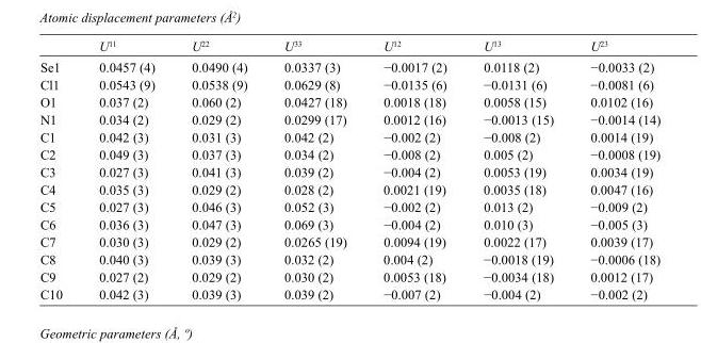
<table><thead><tr><td></td><td>U<sup>11</sup></td><td>U<sup>22</sup></td><td>U<sup>33</sup></td><td>U<sup>12</sup></td><td>U<sup>13</sup></td><td>U<sup>23</sup></td></tr></thead><tbody><tr><td>Se1</td><td>0.0457 (4)</td><td>0.0490 (4)</td><td>0.0337 (3)</td><td>−0.0017 (2)</td><td>0.0118 (2)</td><td>−0.0033 (2)</td></tr><tr><td>Cl1</td><td>0.0543 (9)</td><td>0.0538 (9)</td><td>0.0629 (8)</td><td>−0.0135 (6)</td><td>−0.0131 (6)</td><td>−0.0081 (6)</td></tr><tr><td>O1</td><td>0.037 (2)</td><td>0.060 (2)</td><td>0.0427 (18)</td><td>0.0018 (18)</td><td>0.0058 (15)</td><td>0.0102 (16)</td></tr><tr><td>N1</td><td>0.034 (2)</td><td>0.029 (2)</td><td>0.0299 (17)</td><td>0.0012 (16)</td><td>−0.0013 (15)</td><td>−0.0014 (14)</td></tr><tr><td>C1</td><td>0.042 (3)</td><td>0.031 (3)</td><td>0.042 (2)</td><td>−0.002 (2)</td><td>−0.008 (2)</td><td>0.0014 (19)</td></tr><tr><td>C2</td><td>0.049 (3)</td><td>0.037 (3)</td><td>0.034 (2)</td><td>−0.008 (2)</td><td>0.005 (2)</td><td>−0.0008 (19)</td></tr><tr><td>C3</td><td>0.027 (3)</td><td>0.041 (3)</td><td>0.039 (2)</td><td>−0.004 (2)</td><td>0.0053 (19)</td><td>0.0034 (19)</td></tr><tr><td>C4</td><td>0.035 (3)</td><td>0.029 (2)</td><td>0.028 (2)</td><td>0.0021 (19)</td><td>0.0035 (18)</td><td>0.0047 (16)</td></tr><tr><td>C5</td><td>0.027 (3)</td><td>0.046 (3)</td><td>0.052 (3)</td><td>−0.002 (2)</td><td>0.013 (2)</td><td>−0.009 (2)</td></tr><tr><td>C6</td><td>0.036 (3)</td><td>0.047 (3)</td><td>0.069 (3)</td><td>−0.004 (2)</td><td>0.010 (3)</td><td>−0.005 (3)</td></tr><tr><td>C7</td><td>0.030 (3)</td><td>0.029 (2)</td><td>0.0265 (19)</td><td>0.0094 (19)</td><td>0.0022 (17)</td><td>0.0039 (17)</td></tr><tr><td>C8</td><td>0.040 (3)</td><td>0.039 (3)</td><td>0.032 (2)</td><td>0.004 (2)</td><td>−0.0018 (19)</td><td>−0.0006 (18)</td></tr><tr><td>C9</td><td>0.027 (2)</td><td>0.029 (2)</td><td>0.030 (2)</td><td>0.0053 (18)</td><td>−0.0034 (18)</td><td>0.0012 (17)</td></tr><tr><td>C10</td><td>0.042 (3)</td><td>0.039 (3)</td><td>0.039 (2)</td><td>−0.007 (2)</td><td>−0.004 (2)</td><td>−0.002 (2)</td></tr></tbody></table>